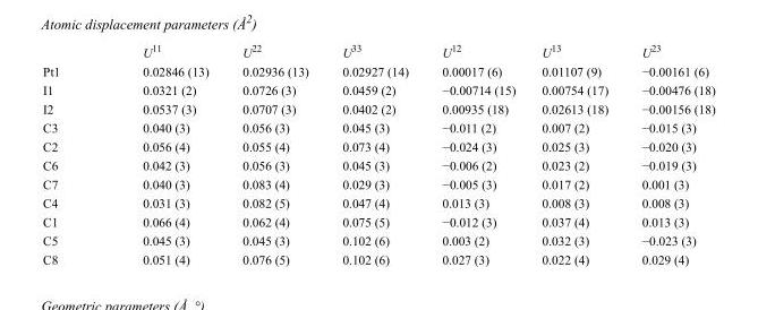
<table><thead><tr><td></td><td>U<sup>11</sup></td><td>U<sup>22</sup></td><td>U<sup>33</sup></td><td>U<sup>12</sup></td><td>U<sup>13</sup></td><td>U<sup>23</sup></td></tr></thead><tbody><tr><td>Pt1</td><td>0.02846 (13)</td><td>0.02936 (13)</td><td>0.02927 (14)</td><td>0.00017 (6)</td><td>0.01107 (9)</td><td>−0.00161 (6)</td></tr><tr><td>I1</td><td>0.0321 (2)</td><td>0.0726 (3)</td><td>0.0459 (2)</td><td>−0.00714 (15)</td><td>0.00754 (17)</td><td>−0.00476 (18)</td></tr><tr><td>I2</td><td>0.0537 (3)</td><td>0.0707 (3)</td><td>0.0402 (2)</td><td>0.00935 (18)</td><td>0.02613 (18)</td><td>−0.00156 (18)</td></tr><tr><td>C3</td><td>0.040 (3)</td><td>0.056 (3)</td><td>0.045 (3)</td><td>−0.011 (2)</td><td>0.007 (2)</td><td>−0.015 (3)</td></tr><tr><td>C2</td><td>0.056 (4)</td><td>0.055 (4)</td><td>0.073 (4)</td><td>−0.024 (3)</td><td>0.025 (3)</td><td>−0.020 (3)</td></tr><tr><td>C6</td><td>0.042 (3)</td><td>0.056 (3)</td><td>0.045 (3)</td><td>−0.006 (2)</td><td>0.023 (2)</td><td>−0.019 (3)</td></tr><tr><td>C7</td><td>0.040 (3)</td><td>0.083 (4)</td><td>0.029 (3)</td><td>−0.005 (3)</td><td>0.017 (2)</td><td>0.001 (3)</td></tr><tr><td>C4</td><td>0.031 (3)</td><td>0.082 (5)</td><td>0.047 (4)</td><td>0.013 (3)</td><td>0.008 (3)</td><td>0.008 (3)</td></tr><tr><td>C1</td><td>0.066 (4)</td><td>0.062 (4)</td><td>0.075 (5)</td><td>−0.012 (3)</td><td>0.037 (4)</td><td>0.013 (3)</td></tr><tr><td>C5</td><td>0.045 (3)</td><td>0.045 (3)</td><td>0.102 (6)</td><td>0.003 (2)</td><td>0.032 (3)</td><td>−0.023 (3)</td></tr><tr><td>C8</td><td>0.051 (4)</td><td>0.076 (5)</td><td>0.102 (6)</td><td>0.027 (3)</td><td>0.022 (4)</td><td>0.029 (4)</td></tr></tbody></table>